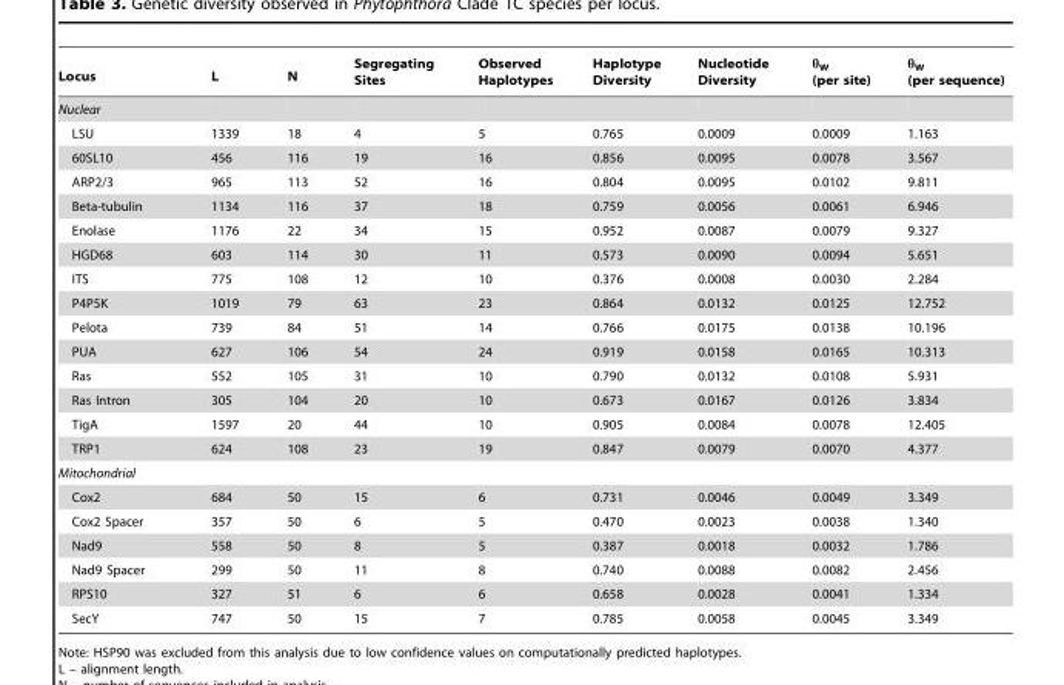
<table><thead><tr><td>Locus</td><td>L</td><td>N</td><td>Segregating Sites</td><td>Observed Haplotypes</td><td>Haplotype Diversity</td><td>Nucleotide Diversity</td><td>θ<sub>W</sub> (per site)</td><td>θ<sub>W</sub> (per sequence)</td></tr></thead><tbody><tr><td colspan="9">Nuclear</td></tr><tr><td>LSU</td><td>1339</td><td>18</td><td>4</td><td>5</td><td>0.765</td><td>0.0009</td><td>0.0009</td><td>1.163</td></tr><tr><td>60SL10</td><td>456</td><td>116</td><td>19</td><td>16</td><td>0.856</td><td>0.0095</td><td>0.0078</td><td>3.567</td></tr><tr><td>ARP2/3</td><td>965</td><td>113</td><td>52</td><td>16</td><td>0.804</td><td>0.0095</td><td>0.0102</td><td>9.811</td></tr><tr><td>Beta-tubulin</td><td>1134</td><td>116</td><td>37</td><td>18</td><td>0.759</td><td>0.0056</td><td>0.0061</td><td>6.946</td></tr><tr><td>Enolase</td><td>1176</td><td>22</td><td>34</td><td>15</td><td>0.952</td><td>0.0087</td><td>0.0079</td><td>9.327</td></tr><tr><td>HGD68</td><td>603</td><td>114</td><td>30</td><td>11</td><td>0.573</td><td>0.0090</td><td>0.0094</td><td>5.651</td></tr><tr><td>ITS</td><td>775</td><td>108</td><td>12</td><td>10</td><td>0.376</td><td>0.0008</td><td>0.0030</td><td>2.284</td></tr><tr><td>P4P5K</td><td>1019</td><td>79</td><td>63</td><td>23</td><td>0.864</td><td>0.0132</td><td>0.0125</td><td>12.752</td></tr><tr><td>Pelota</td><td>739</td><td>84</td><td>51</td><td>14</td><td>0.766</td><td>0.0175</td><td>0.0138</td><td>10.196</td></tr><tr><td>PUA</td><td>627</td><td>106</td><td>54</td><td>24</td><td>0.919</td><td>0.0158</td><td>0.0165</td><td>10.313</td></tr><tr><td>Ras</td><td>552</td><td>105</td><td>31</td><td>10</td><td>0.790</td><td>0.0132</td><td>0.0108</td><td>5.931</td></tr><tr><td>Ras Intron</td><td>305</td><td>104</td><td>20</td><td>10</td><td>0.673</td><td>0.0167</td><td>0.0126</td><td>3.834</td></tr><tr><td>TigA</td><td>1597</td><td>20</td><td>44</td><td>10</td><td>0.905</td><td>0.0084</td><td>0.0078</td><td>12.405</td></tr><tr><td>TRP1</td><td>624</td><td>108</td><td>23</td><td>19</td><td>0.847</td><td>0.0079</td><td>0.0070</td><td>4.377</td></tr><tr><td colspan="9">Mitochondrial</td></tr><tr><td>Cox2</td><td>684</td><td>50</td><td>15</td><td>6</td><td>0.731</td><td>0.0046</td><td>0.0049</td><td>3.349</td></tr><tr><td>Cox2 Spacer</td><td>357</td><td>50</td><td>6</td><td>5</td><td>0.470</td><td>0.0023</td><td>0.0038</td><td>1.340</td></tr><tr><td>Nad9</td><td>558</td><td>50</td><td>8</td><td>5</td><td>0.387</td><td>0.0018</td><td>0.0032</td><td>1.786</td></tr><tr><td>Nad9 Spacer</td><td>299</td><td>50</td><td>11</td><td>8</td><td>0.740</td><td>0.0088</td><td>0.0082</td><td>2.456</td></tr><tr><td>RPS10</td><td>327</td><td>51</td><td>6</td><td>6</td><td>0.658</td><td>0.0028</td><td>0.0041</td><td>1.334</td></tr><tr><td>SecY</td><td>747</td><td>50</td><td>15</td><td>7</td><td>0.785</td><td>0.0058</td><td>0.0045</td><td>3.349</td></tr></tbody></table>